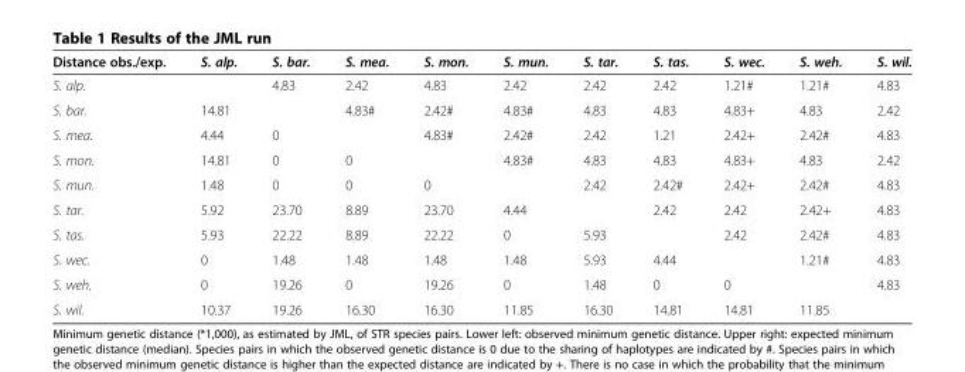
<table><thead><tr><td>Distance obs./exp.</td><td>S. alp.</td><td>S. bar.</td><td>S. mea.</td><td>S. mon.</td><td>S. mun.</td><td>S. tar.</td><td>S. tas.</td><td>S. wec.</td><td>S. weh.</td><td>S. wil.</td></tr></thead><tbody><tr><td>S. alp.</td><td></td><td>4.83</td><td>2.42</td><td>4.83</td><td>2.42</td><td>2.42</td><td>2.42</td><td>1.21#</td><td>1.21#</td><td>4.83</td></tr><tr><td>S. bar.</td><td>14.81</td><td></td><td>4.83#</td><td>2.42#</td><td>4.83#</td><td>4.83</td><td>4.83</td><td>4.83+</td><td>4.83</td><td>2.42</td></tr><tr><td>S. mea.</td><td>4.44</td><td>0</td><td></td><td>4.83#</td><td>2.42#</td><td>2.42</td><td>1.21</td><td>2.42+</td><td>2.42#</td><td>4.83</td></tr><tr><td>S. mon.</td><td>14.81</td><td>0</td><td>0</td><td></td><td>4.83#</td><td>4.83</td><td>4.83</td><td>4.83+</td><td>4.83</td><td>2.42</td></tr><tr><td>S. mun.</td><td>1.48</td><td>0</td><td>0</td><td>0</td><td></td><td>2.42</td><td>2.42#</td><td>2.42+</td><td>2.42#</td><td>4.83</td></tr><tr><td>S. tar.</td><td>5.92</td><td>23.70</td><td>8.89</td><td>23.70</td><td>4.44</td><td></td><td>2.42</td><td>2.42</td><td>2.42+</td><td>4.83</td></tr><tr><td>S. tas.</td><td>5.93</td><td>22.22</td><td>8.89</td><td>22.22</td><td>0</td><td>5.93</td><td></td><td>2.42</td><td>2.42#</td><td>4.83</td></tr><tr><td>S. wec.</td><td>0</td><td>1.48</td><td>1.48</td><td>1.48</td><td>1.48</td><td>5.93</td><td>4.44</td><td></td><td>1.21#</td><td>4.83</td></tr><tr><td>S. weh.</td><td>0</td><td>19.26</td><td>0</td><td>19.26</td><td>0</td><td>1.48</td><td>0</td><td>0</td><td></td><td>4.83</td></tr><tr><td>S. wil.</td><td>10.37</td><td>19.26</td><td>16.30</td><td>16.30</td><td>11.85</td><td>16.30</td><td>14.81</td><td>14.81</td><td>11.85</td><td></td></tr></tbody></table>